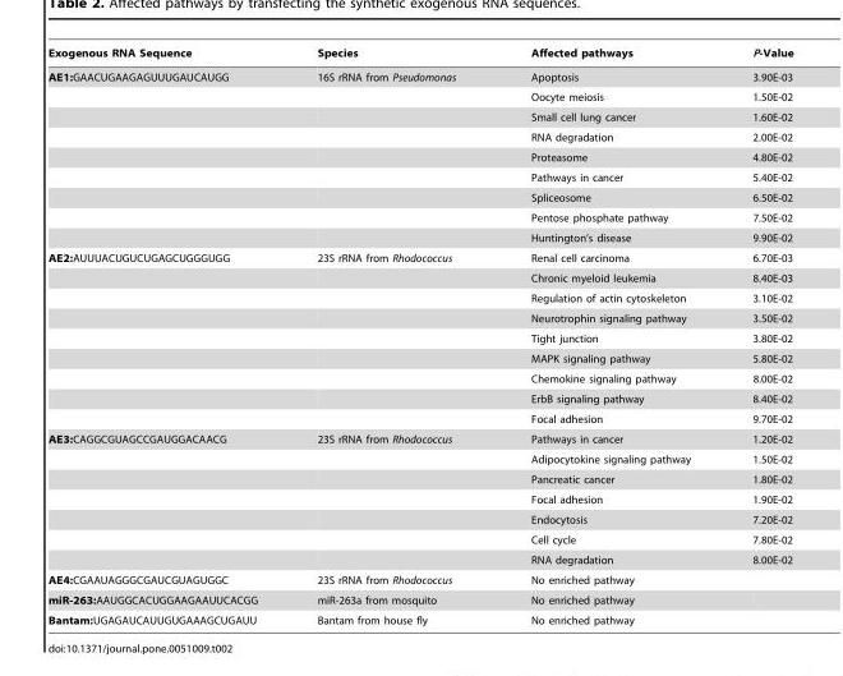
<table><thead><tr><td>Exogenous RNA Sequence</td><td>Species</td><td>Affected pathways</td><td>P-Value</td></tr></thead><tbody><tr><td rowspan="9">AE1:GAACUGAAGAGUUUGAUCAUGG</td><td>16S rRNA from Pseudomonas</td><td>Apoptosis</td><td>3.90E-03</td></tr><tr><td></td><td>Oocyte meiosis</td><td>1.50E-02</td></tr><tr><td></td><td>Small cell lung cancer</td><td>1.60E-02</td></tr><tr><td></td><td>RNA degradation</td><td>2.00E-02</td></tr><tr><td></td><td>Proteasome</td><td>4.80E-02</td></tr><tr><td></td><td>Pathways in cancer</td><td>5.40E-02</td></tr><tr><td></td><td>Spliceosome</td><td>6.50E-02</td></tr><tr><td></td><td>Pentose phosphate pathway</td><td>7.50E-02</td></tr><tr><td></td><td>Huntington’s disease</td><td>9.90E-02</td></tr><tr><td rowspan="9">AE2:AUUUACUGUCUGAGCUGGGUGG</td><td>23S rRNA from Rhodococcus</td><td>Renal cell carcinoma</td><td>6.70E-03</td></tr><tr><td></td><td>Chronic myeloid leukemia</td><td>8.40E-03</td></tr><tr><td></td><td>Regulation of actin cytoskeleton</td><td>3.10E-02</td></tr><tr><td></td><td>Neurotrophin signaling pathway</td><td>3.50E-02</td></tr><tr><td></td><td>Tight junction</td><td>3.80E-02</td></tr><tr><td></td><td>MAPK signaling pathway</td><td>5.80E-02</td></tr><tr><td></td><td>Chemokine signaling pathway</td><td>8.00E-02</td></tr><tr><td></td><td>ErbB signaling pathway</td><td>8.40E-02</td></tr><tr><td></td><td>Focal adhesion</td><td>9.70E-02</td></tr><tr><td rowspan="7">AE3:CAGGCGUAGCCGAUGGACAACG</td><td>23S rRNA from Rhodococcus</td><td>Pathways in cancer</td><td>1.20E-02</td></tr><tr><td></td><td>Adipocytokine signaling pathway</td><td>1.50E-02</td></tr><tr><td></td><td>Pancreatic cancer</td><td>1.80E-02</td></tr><tr><td></td><td>Focal adhesion</td><td>1.90E-02</td></tr><tr><td></td><td>Endocytosis</td><td>7.20E-02</td></tr><tr><td></td><td>Cell cycle</td><td>7.80E-02</td></tr><tr><td></td><td>RNA degradation</td><td>8.00E-02</td></tr><tr><td>AE4:CGAAUAGGGCGAUCGUAGUGGC</td><td>23S rRNA from Rhodococcus</td><td>No enriched pathway</td><td></td></tr><tr><td>miR-263:AAUGGCACUGGAAGAAUUCACGG</td><td>miR-263a from mosquito</td><td>No enriched pathway</td><td></td></tr><tr><td>Bantam:UGAGAUCAUUGUGAAAGCUGAUU</td><td>Bantam from house fly</td><td>No enriched pathway</td><td></td></tr></tbody></table>